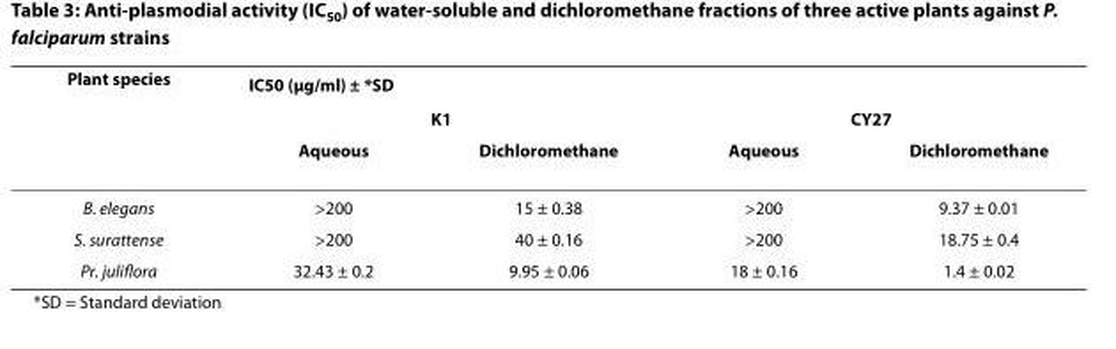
<table><thead><tr><td rowspan="3">Plant species</td><td colspan="4">IC<sub>50</sub> (μg/ml) ± *SD</td></tr><tr><td colspan="2">K1</td><td colspan="2">CY27</td></tr><tr><td>Aqueous</td><td>Dichloromethane</td><td>Aqueous</td><td>Dichloromethane</td></tr></thead><tbody><tr><td>B. elegans</td><td>&gt;200</td><td>15 ± 0.38</td><td>&gt;200</td><td>9.37 ± 0.01</td></tr><tr><td>S. surattense</td><td>&gt;200</td><td>40 ± 0.16</td><td>&gt;200</td><td>18.75 ± 0.4</td></tr><tr><td>Pr. juliflora</td><td>32.43 ± 0.2</td><td>9.95 ± 0.06</td><td>18 ± 0.16</td><td>1.4 ± 0.02</td></tr></tbody></table>